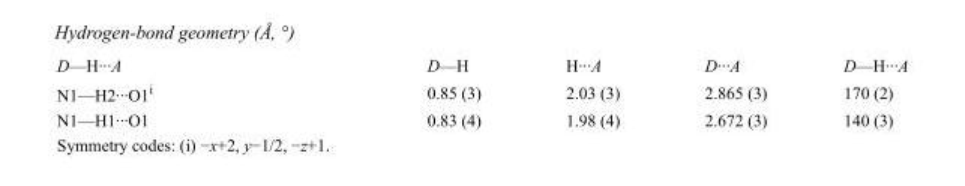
<table><tbody><tr><td>D—H···A</td><td>D—H</td><td>H···A</td><td>D···A</td><td>D—H···A</td></tr><tr><td>N1—H2···O1<sup>i</sup></td><td>0.85 (3)</td><td>2.03 (3)</td><td>2.865 (3)</td><td>170 (2)</td></tr><tr><td>N1—H1···O1</td><td>0.83 (4)</td><td>1.98 (4)</td><td>2.672 (3)</td><td>140 (3)</td></tr></tbody></table>